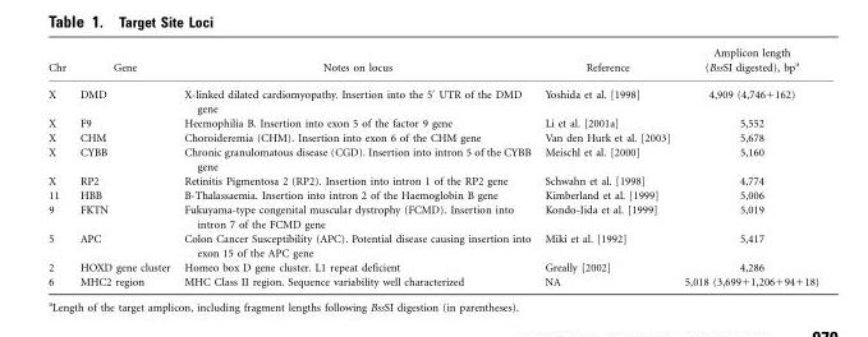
<table><thead><tr><td>Chr</td><td>Gene</td><td>Notes on locus</td><td>Reference</td><td>Amplicon length (BssSI digested), bp<sup>a</sup></td></tr></thead><tbody><tr><td>X</td><td>DMD</td><td>X-linked dilated cardiomyopathy. Insertion into the 5′ UTR of the DMD gene</td><td>Yoshida et al. [1998]</td><td>4,909 (4,746+162)</td></tr><tr><td>X</td><td>F9</td><td>Heemophilia B. Insertion into exon 5 of the factor 9 gene</td><td>Li et al. [2001a]</td><td>5,552</td></tr><tr><td>X</td><td>CHM</td><td>Choroideremia (CHM). Insertion into exon 6 of the CHM gene</td><td>Van den Hurk et al. [2003]</td><td>5,678</td></tr><tr><td>X</td><td>CYBB</td><td>Chronic granulomatous disease (CGD). Insertion into intron 5 of the CYBB gene</td><td>Meischl et al. [2000]</td><td>5,160</td></tr><tr><td>X</td><td>RP2</td><td>Retinitis Pigmentosa 2 (RP2). Insertion into intron 1 of the RP2 gene</td><td>Schwahn et al. [1998]</td><td>4,774</td></tr><tr><td>11</td><td>HBB</td><td>B-Thalassaemia. Insertion into intron 2 of the Haemoglobin B gene</td><td>Kimberland et al. [1999]</td><td>5,006</td></tr><tr><td>9</td><td>FKTN</td><td>Fukuyama-type congenital muscular dystrophy (FCMD). Insertion into intron 7 of the FCMD gene</td><td>Kondo-Iida et al. [1999]</td><td>5,019</td></tr><tr><td>5</td><td>APC</td><td>Colon Cancer Susceptibility (APC). Potential disease causing insertion into exon 15 of the APC gene</td><td>Miki et al. [1992]</td><td>5,417</td></tr><tr><td>2</td><td>HOXD gene cluster</td><td>Homeo box D gene cluster. L1 repeat deficient</td><td>Greally [2002]</td><td>4,286</td></tr><tr><td>6</td><td>MHC2 region</td><td>MHC Class II region. Sequence variability well characterized</td><td>NA</td><td>5,018 (3,699+1,206+94+18)</td></tr></tbody></table>